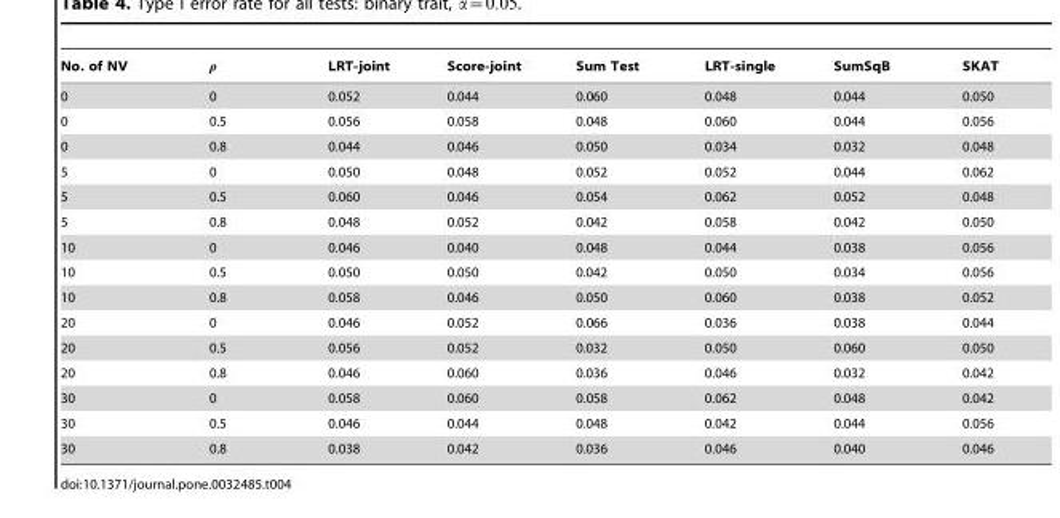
<table><thead><tr><td>No. of NV</td><td>r</td><td>LRT-joint</td><td>Score-joint</td><td>Sum Test</td><td>LRT-single</td><td>SumSqB</td><td>SKAT</td></tr></thead><tbody><tr><td>0</td><td>0</td><td>0.052</td><td>0.044</td><td>0.060</td><td>0.048</td><td>0.044</td><td>0.050</td></tr><tr><td>0</td><td>0.5</td><td>0.056</td><td>0.058</td><td>0.048</td><td>0.060</td><td>0.044</td><td>0.056</td></tr><tr><td>0</td><td>0.8</td><td>0.044</td><td>0.046</td><td>0.050</td><td>0.034</td><td>0.032</td><td>0.048</td></tr><tr><td>5</td><td>0</td><td>0.050</td><td>0.048</td><td>0.052</td><td>0.052</td><td>0.044</td><td>0.062</td></tr><tr><td>5</td><td>0.5</td><td>0.060</td><td>0.046</td><td>0.054</td><td>0.062</td><td>0.052</td><td>0.048</td></tr><tr><td>5</td><td>0.8</td><td>0.048</td><td>0.052</td><td>0.042</td><td>0.058</td><td>0.042</td><td>0.050</td></tr><tr><td>10</td><td>0</td><td>0.046</td><td>0.040</td><td>0.048</td><td>0.044</td><td>0.038</td><td>0.056</td></tr><tr><td>10</td><td>0.5</td><td>0.050</td><td>0.050</td><td>0.042</td><td>0.050</td><td>0.034</td><td>0.056</td></tr><tr><td>10</td><td>0.8</td><td>0.058</td><td>0.046</td><td>0.050</td><td>0.060</td><td>0.038</td><td>0.052</td></tr><tr><td>20</td><td>0</td><td>0.046</td><td>0.052</td><td>0.066</td><td>0.036</td><td>0.038</td><td>0.044</td></tr><tr><td>20</td><td>0.5</td><td>0.056</td><td>0.052</td><td>0.032</td><td>0.050</td><td>0.060</td><td>0.050</td></tr><tr><td>20</td><td>0.8</td><td>0.046</td><td>0.060</td><td>0.036</td><td>0.046</td><td>0.032</td><td>0.042</td></tr><tr><td>30</td><td>0</td><td>0.058</td><td>0.060</td><td>0.058</td><td>0.062</td><td>0.048</td><td>0.042</td></tr><tr><td>30</td><td>0.5</td><td>0.046</td><td>0.044</td><td>0.048</td><td>0.042</td><td>0.044</td><td>0.056</td></tr><tr><td>30</td><td>0.8</td><td>0.038</td><td>0.042</td><td>0.036</td><td>0.046</td><td>0.040</td><td>0.046</td></tr></tbody></table>